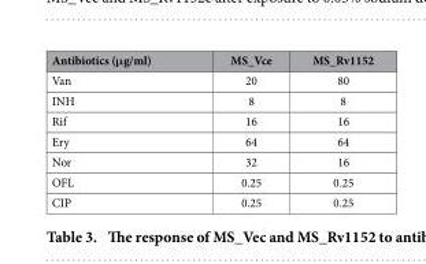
<table><thead><tr><td>Antibiotics (μg/ml)</td><td>MS_Vce</td><td>MS_Rv1152</td></tr></thead><tbody><tr><td>Van</td><td>20</td><td>80</td></tr><tr><td>INH</td><td>8</td><td>8</td></tr><tr><td>Rif</td><td>16</td><td>16</td></tr><tr><td>Ery</td><td>64</td><td>64</td></tr><tr><td>Nor</td><td>32</td><td>16</td></tr><tr><td>OFL</td><td>0.25</td><td>0.25</td></tr><tr><td>CIP</td><td>0.25</td><td>0.25</td></tr></tbody></table>